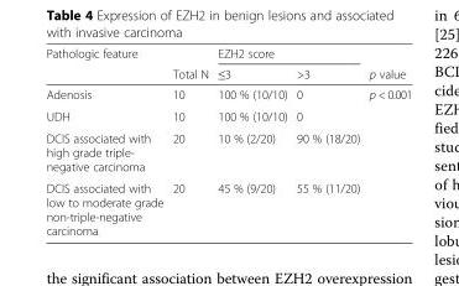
<table><thead><tr><td rowspan="2">Pathologic feature</td><td rowspan="2">Total N</td><td colspan="2">EZH2 score</td><td rowspan="2">p value</td></tr><tr><td>≤3</td><td>&gt;3</td></tr></thead><tbody><tr><td>Adenosis</td><td>10</td><td>100 % (10/10)</td><td>0</td><td>p &lt; 0.001</td></tr><tr><td>UDH</td><td>10</td><td>100 % (10/10)</td><td>0</td><td></td></tr><tr><td>DCIS associated with high grade triple- negative carcinoma</td><td>20</td><td>10 % (2/20)</td><td>90 % (18/20)</td><td></td></tr><tr><td>DCIS associated with low to moderate grade non-triple-negative carcinoma</td><td>20</td><td>45 % (9/20)</td><td>55 % (11/20)</td><td></td></tr></tbody></table>